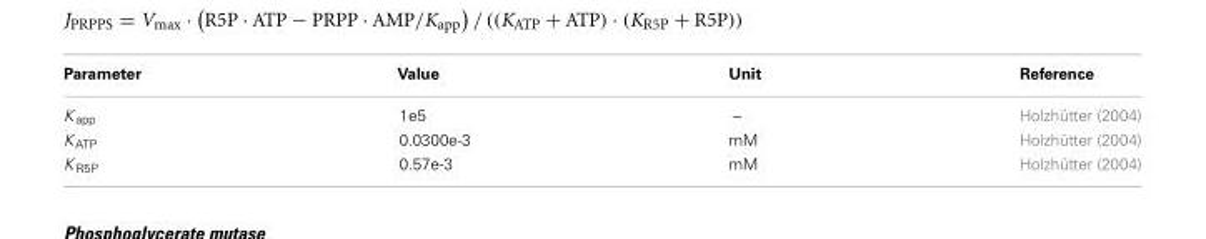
<table><thead><tr><td>Parameter</td><td>Value</td><td>Unit</td><td>Reference</td></tr></thead><tbody><tr><td>K <sub>app</sub></td><td>1e5</td><td>–</td><td>Holzhütter (2004)</td></tr><tr><td>K <sub>ATP</sub></td><td>0.0300e-3</td><td>mM</td><td>Holzhütter (2004)</td></tr><tr><td>K <sub>R5P</sub></td><td>0.57e-3</td><td>mM</td><td>Holzhütter (2004)</td></tr></tbody></table>